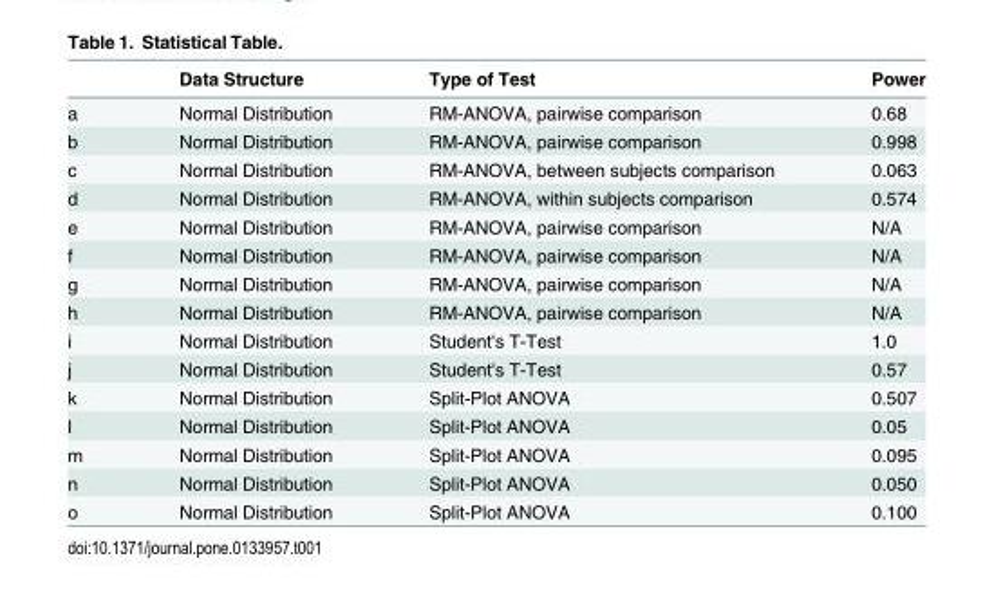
<table><thead><tr><td></td><td>Data Structure</td><td>Type of Test</td><td>Power</td></tr></thead><tbody><tr><td>a</td><td>Normal Distribution</td><td>RM-ANOVA, pairwise comparison</td><td>0.68</td></tr><tr><td>b</td><td>Normal Distribution</td><td>RM-ANOVA, pairwise comparison</td><td>0.998</td></tr><tr><td>c</td><td>Normal Distribution</td><td>RM-ANOVA, between subjects comparison</td><td>0.063</td></tr><tr><td>d</td><td>Normal Distribution</td><td>RM-ANOVA, within subjects comparison</td><td>0.574</td></tr><tr><td>e</td><td>Normal Distribution</td><td>RM-ANOVA, pairwise comparison</td><td>N/A</td></tr><tr><td>f</td><td>Normal Distribution</td><td>RM-ANOVA, pairwise comparison</td><td>N/A</td></tr><tr><td>g</td><td>Normal Distribution</td><td>RM-ANOVA, pairwise comparison</td><td>N/A</td></tr><tr><td>h</td><td>Normal Distribution</td><td>RM-ANOVA, pairwise comparison</td><td>N/A</td></tr><tr><td>i</td><td>Normal Distribution</td><td>Student&#x27;s T-Test</td><td>1.0</td></tr><tr><td>j</td><td>Normal Distribution</td><td>Student&#x27;s T-Test</td><td>0.57</td></tr><tr><td>k</td><td>Normal Distribution</td><td>Split-Plot ANOVA</td><td>0.507</td></tr><tr><td>l</td><td>Normal Distribution</td><td>Split-Plot ANOVA</td><td>0.05</td></tr><tr><td>m</td><td>Normal Distribution</td><td>Split-Plot ANOVA</td><td>0.095</td></tr><tr><td>n</td><td>Normal Distribution</td><td>Split-Plot ANOVA</td><td>0.050</td></tr><tr><td>o</td><td>Normal Distribution</td><td>Split-Plot ANOVA</td><td>0.100</td></tr></tbody></table>